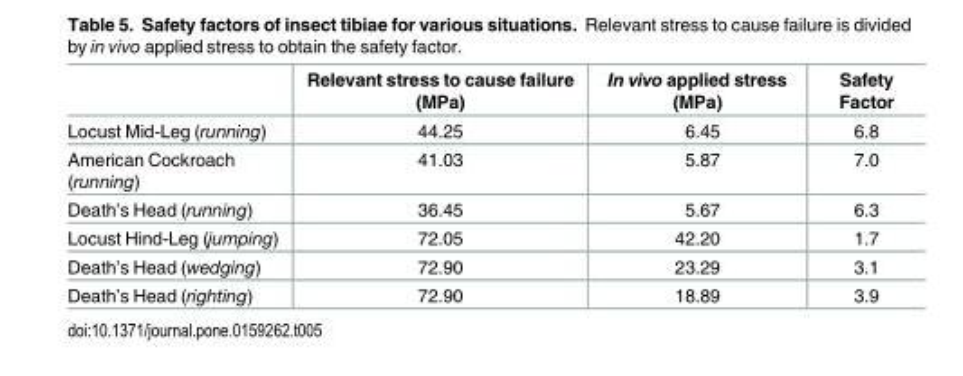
<table><thead><tr><td></td><td>Relevant stress to cause failure (MPa)</td><td>In vivo applied stress (MPa)</td><td>Safety Factor</td></tr></thead><tbody><tr><td>Locust Mid-Leg (running)</td><td>44.25</td><td>6.45</td><td>6.8</td></tr><tr><td>American Cockroach (running)</td><td>41.03</td><td>5.87</td><td>7.0</td></tr><tr><td>Death’s Head (running)</td><td>36.45</td><td>5.67</td><td>6.3</td></tr><tr><td>Locust Hind-Leg (jumping)</td><td>72.05</td><td>42.20</td><td>1.7</td></tr><tr><td>Death’s Head (wedging)</td><td>72.90</td><td>23.29</td><td>3.1</td></tr><tr><td>Death’s Head (righting)</td><td>72.90</td><td>18.89</td><td>3.9</td></tr></tbody></table>